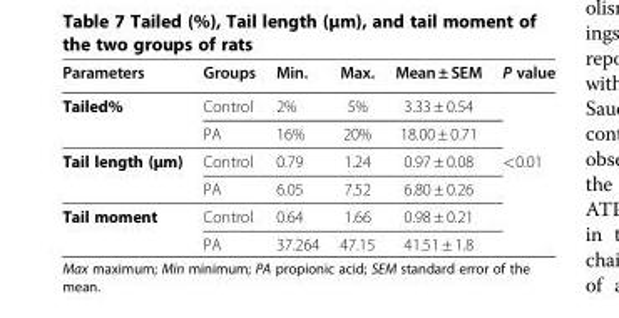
<table><thead><tr><td>Parameters</td><td>Groups</td><td>Min.</td><td>Max.</td><td>Mean ± SEM</td><td>P value</td></tr></thead><tbody><tr><td rowspan="2">Tailed%</td><td>Control</td><td>2%</td><td>5%</td><td>3.33 ± 0.54</td><td></td></tr><tr><td>PA</td><td>16%</td><td>20%</td><td>18.00 ± 0.71</td><td></td></tr><tr><td rowspan="2">Tail length (μm)</td><td>Control</td><td>0.79</td><td>1.24</td><td>0.97 ± 0.08</td><td>&lt;0.01</td></tr><tr><td>PA</td><td>6.05</td><td>7.52</td><td>6.80 ± 0.26</td><td></td></tr><tr><td rowspan="2">Tail moment</td><td>Control</td><td>0.64</td><td>1.66</td><td>0.98 ± 0.21</td><td></td></tr><tr><td>PA</td><td>37.264</td><td>47.15</td><td>41.51 ± 1.8</td><td></td></tr></tbody></table>